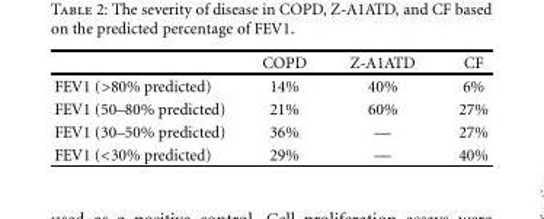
<table><thead><tr><td></td><td>COPD</td><td>Z-A1ATD</td><td>CF</td></tr></thead><tbody><tr><td>FEV1 (&gt;80% predicted)</td><td>14%</td><td>40%</td><td>6%</td></tr><tr><td>FEV1 (50–80% predicted)</td><td>21%</td><td>60%</td><td>27%</td></tr><tr><td>FEV1 (30–50% predicted)</td><td>36%</td><td>—</td><td>27%</td></tr><tr><td>FEV1 (&lt;30% predicted)</td><td>29%</td><td>—</td><td>40%</td></tr></tbody></table>